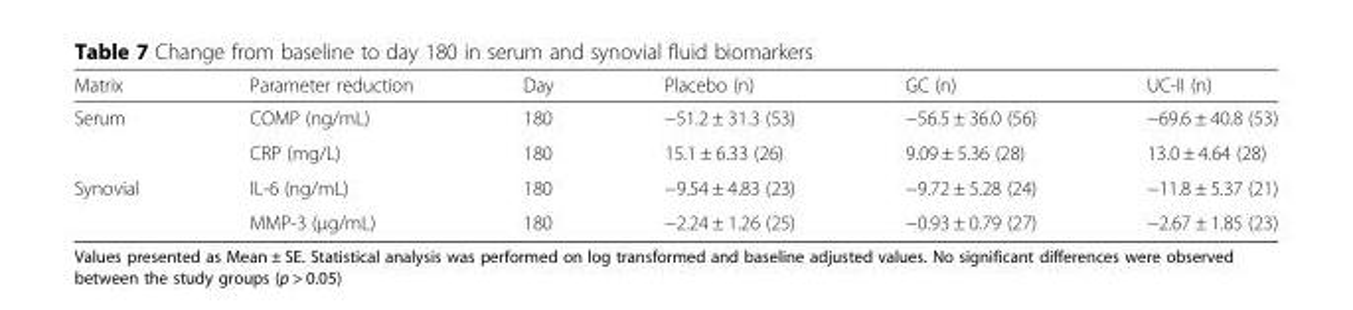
<table><thead><tr><td>Matrix</td><td>Parameter reduction</td><td>Day</td><td>Placebo (n)</td><td>GC (n)</td><td>UC-II (n)</td></tr></thead><tbody><tr><td rowspan="2">Serum</td><td>COMP (ng/mL)</td><td>180</td><td>−51.2 ± 31.3 (53)</td><td>−56.5 ± 36.0 (56)</td><td>−69.6 ± 40.8 (53)</td></tr><tr><td>CRP (mg/L)</td><td>180</td><td>15.1 ± 6.33 (26)</td><td>9.09 ± 5.36 (28)</td><td>13.0 ± 4.64 (28)</td></tr><tr><td rowspan="2">Synovial</td><td>IL-6 (ng/mL)</td><td>180</td><td>−9.54 ± 4.83 (23)</td><td>−9.72 ± 5.28 (24)</td><td>−11.8 ± 5.37 (21)</td></tr><tr><td>MMP-3 (μg/mL)</td><td>180</td><td>−2.24 ± 1.26 (25)</td><td>−0.93 ± 0.79 (27)</td><td>−2.67 ± 1.85 (23)</td></tr></tbody></table>